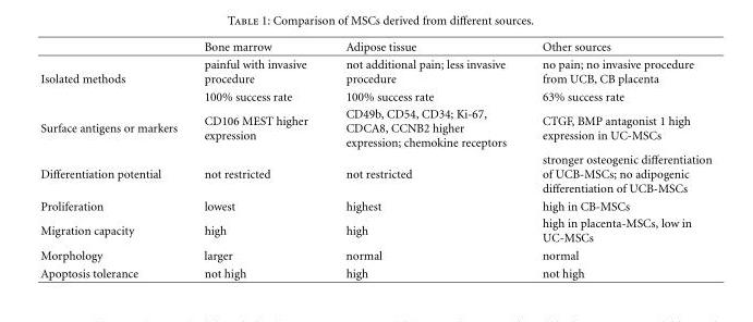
<table><thead><tr><td></td><td>Bone marrow</td><td>Adipose tissue</td><td>Other sources</td></tr></thead><tbody><tr><td rowspan="2">Isolated methods</td><td>painful with invasive procedure</td><td>not additional pain; less invasive procedure</td><td>no pain; no invasive procedure from UCB, CB placenta</td></tr><tr><td>100% success rate</td><td>100% success rate</td><td>63% success rate</td></tr><tr><td>Surface antigens or markers</td><td>CD106 MEST higher expression</td><td>CD49b, CD54, CD34; Ki-67, CDCA8, CCNB2 higher expression; chemokine receptors</td><td>CTGF, BMP antagonist 1 high expression in UC-MSCs</td></tr><tr><td>Differentiation potential</td><td>not restricted</td><td>not restricted</td><td>stronger osteogenic differentiation of UCB-MSCs; no adipogenic differentiation of UCB-MSCs</td></tr><tr><td>Proliferation</td><td>lowest</td><td>highest</td><td>high in CB-MSCs</td></tr><tr><td>Migration capacity</td><td>high</td><td>high</td><td>high in placenta-MSCs, low in UC-MSCs</td></tr><tr><td>Morphology</td><td>larger</td><td>normal</td><td>normal</td></tr><tr><td>Apoptosis tolerance</td><td>not high</td><td>high</td><td>not high</td></tr></tbody></table>